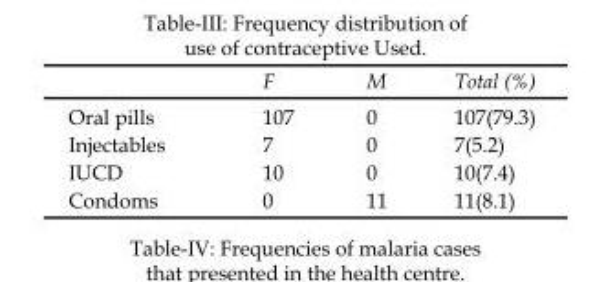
<table><thead><tr><td></td><td>F</td><td>M</td><td>Total (%)</td></tr></thead><tbody><tr><td>Oral pills</td><td>107</td><td>0</td><td>107(79.3)</td></tr><tr><td>Injectables</td><td>7</td><td>0</td><td>7(5.2)</td></tr><tr><td>IUCD</td><td>10</td><td>0</td><td>10(7.4)</td></tr><tr><td>Condoms</td><td>0</td><td>11</td><td>11(8.1)</td></tr></tbody></table>